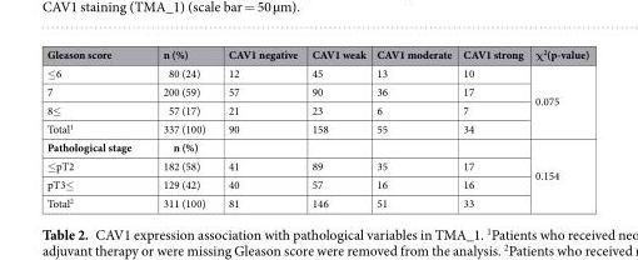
<table><thead><tr><td>Gleason score</td><td>n (%)</td><td>CAV1 negative</td><td>CAV1 weak</td><td>CAV1 moderate</td><td>CAV1 strong</td><td>χ<sup>2</sup>(p-value)</td></tr></thead><tbody><tr><td>≤6</td><td>80 (24)</td><td>12</td><td>45</td><td>13</td><td>10</td><td rowspan="4">0.075</td></tr><tr><td>7</td><td>200 (59)</td><td>57</td><td>90</td><td>36</td><td>17</td></tr><tr><td>8≤</td><td>57 (17)</td><td>21</td><td>23</td><td>6</td><td>7</td></tr><tr><td>Total<sup>1</sup></td><td>337 (100)</td><td>90</td><td>158</td><td>55</td><td>34</td></tr><tr><td>Pathological stage</td><td>n (%)</td><td></td><td></td><td></td><td></td><td rowspan="4">0.154</td></tr><tr><td>≤pT2</td><td>182 (58)</td><td>41</td><td>89</td><td>35</td><td>17</td></tr><tr><td>pT3≤</td><td>129 (42)</td><td>40</td><td>57</td><td>16</td><td>16</td></tr><tr><td>Total<sup>2</sup></td><td>311 (100)</td><td>81</td><td>146</td><td>51</td><td>33</td></tr></tbody></table>